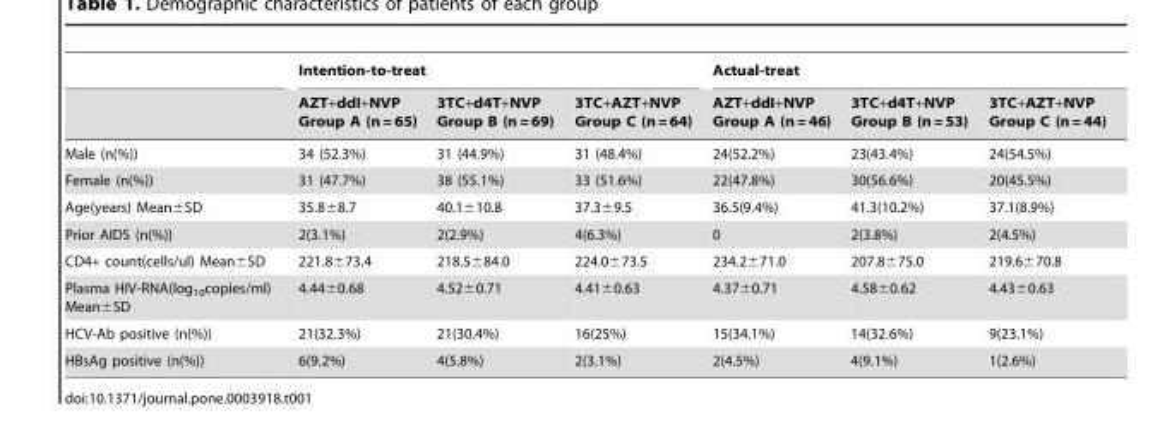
<table><thead><tr><td rowspan="2"></td><td colspan="3">Intention-to-treat</td><td colspan="3">Actual-treat</td></tr><tr><td>AZT+ddI+NVP Group A (n = 65)</td><td>3TC+d4T+NVP Group B (n = 69)</td><td>3TC+AZT+NVP Group C (n = 64)</td><td>AZT+ddI+NVP Group A (n = 46)</td><td>3TC+d4T+NVP Group B (n = 53)</td><td>3TC+AZT+NVP Group C (n = 44)</td></tr></thead><tbody><tr><td>Male (n(%))</td><td>34 (52.3%)</td><td>31 (44.9%)</td><td>31 (48.4%)</td><td>24(52.2%)</td><td>23(43.4%)</td><td>24(54.5%)</td></tr><tr><td>Female (n(%))</td><td>31 (47.7%)</td><td>38 (55.1%)</td><td>33 (51.6%)</td><td>22(47.8%)</td><td>30(56.6%)</td><td>20(45.5%)</td></tr><tr><td>Age(years) Mean±SD</td><td>35.8±8.7</td><td>40.1±10.8</td><td>37.3±9.5</td><td>36.5(9.4%)</td><td>41.3(10.2%)</td><td>37.1(8.9%)</td></tr><tr><td>Prior AIDS (n(%))</td><td>2(3.1%)</td><td>2(2.9%)</td><td>4(6.3%)</td><td>0</td><td>2(3.8%)</td><td>2(4.5%)</td></tr><tr><td>CD4+ count(cells/ul) Mean±SD</td><td>221.8±73.4</td><td>218.5±84.0</td><td>224.0±73.5</td><td>234.2±71.0</td><td>207.8±75.0</td><td>219.6±70.8</td></tr><tr><td>Plasma HIV-RNA(log<sub>10</sub>copies/ml) Mean±SD</td><td>4.44±0.68</td><td>4.52±0.71</td><td>4.41±0.63</td><td>4.37±0.71</td><td>4.58±0.62</td><td>4.43±0.63</td></tr><tr><td>HCV-Ab positive (n(%))</td><td>21(32.3%)</td><td>21(30.4%)</td><td>16(25%)</td><td>15(34.1%)</td><td>14(32.6%)</td><td>9(23.1%)</td></tr><tr><td>HBsAg positive (n(%))</td><td>6(9.2%)</td><td>4(5.8%)</td><td>2(3.1%)</td><td>2(4.5%)</td><td>4(9.1%)</td><td>1(2.6%)</td></tr></tbody></table>